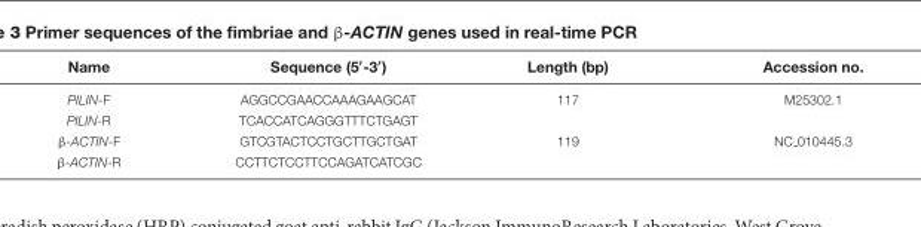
<table><thead><tr><td>Name</td><td>Sequence (5′-3′)</td><td>Length (bp)</td><td>Accession no.</td></tr></thead><tbody><tr><td>PILIN-F</td><td>AGGCCGAACCAAAGAAGCAT</td><td>117</td><td>M25302.1</td></tr><tr><td>PILIN-R</td><td>TCACCATCAGGGTTTCTGAGT</td><td></td><td></td></tr><tr><td>β-ACTIN-F</td><td>GTCGTACTCCTGCTTGCTGAT</td><td>119</td><td>NC 010445.3</td></tr><tr><td>β-ACTIN-R</td><td>CCTTCTCCTTCCAGATCATCGC</td><td></td><td></td></tr></tbody></table>